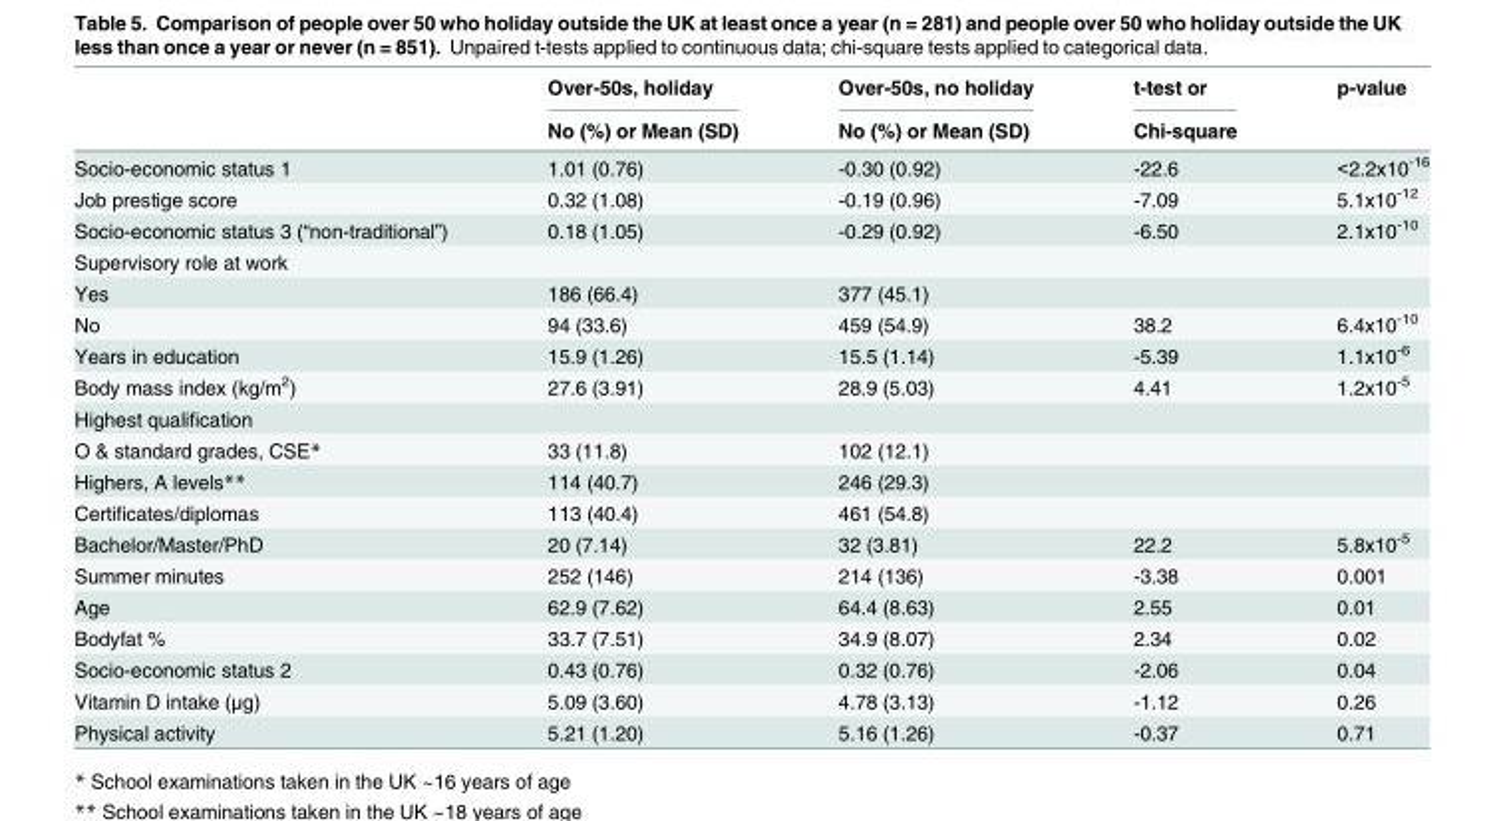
<table><thead><tr><td rowspan="2"></td><td rowspan="2">Over-50s, holiday No (%) or Mean (SD)</td><td rowspan="2">Over-50s, no holiday No (%) or Mean (SD)</td><td rowspan="2">t-test or Chi-square</td><td rowspan="2">p-value</td></tr><tr></tr></thead><tbody><tr><td>Socio-economic status 1</td><td>1.01 (0.76)</td><td>-0.30 (0.92)</td><td>-22.6</td><td>&lt;2.2x10<sup>-16</sup></td></tr><tr><td>Job prestige score</td><td>0.32 (1.08)</td><td>-0.19 (0.96)</td><td>-7.09</td><td>5.1x10<sup>-12</sup></td></tr><tr><td>Socio-economic status 3 (“non-traditional”)</td><td>0.18 (1.05)</td><td>-0.29 (0.92)</td><td>-6.50</td><td>2.1x10<sup>-10</sup></td></tr><tr><td colspan="5">Supervisory role at work</td></tr><tr><td>Yes</td><td>186 (66.4)</td><td>377 (45.1)</td><td></td><td></td></tr><tr><td>No</td><td>94 (33.6)</td><td>459 (54.9)</td><td>38.2</td><td>6.4x10<sup>-10</sup></td></tr><tr><td>Years in education</td><td>15.9 (1.26)</td><td>15.5 (1.14)</td><td>-5.39</td><td>1.1x10<sup>-6</sup></td></tr><tr><td>Body mass index (kg/m<sup>2</sup>)</td><td>27.6 (3.91)</td><td>28.9 (5.03)</td><td>4.41</td><td>1.2x10<sup>-5</sup></td></tr><tr><td colspan="5">Highest qualification</td></tr><tr><td>O &amp; standard grades, CSE*</td><td>33 (11.8)</td><td>102 (12.1)</td><td></td><td></td></tr><tr><td>Highers, A levels**</td><td>114 (40.7)</td><td>246 (29.3)</td><td></td><td></td></tr><tr><td>Certificates/diplomas</td><td>113 (40.4)</td><td>461 (54.8)</td><td></td><td></td></tr><tr><td>Bachelor/Master/PhD</td><td>20 (7.14)</td><td>32 (3.81)</td><td>22.2</td><td>5.8x10<sup>-5</sup></td></tr><tr><td>Summer minutes</td><td>252 (146)</td><td>214 (136)</td><td>-3.38</td><td>0.001</td></tr><tr><td>Age</td><td>62.9 (7.62)</td><td>64.4 (8.63)</td><td>2.55</td><td>0.01</td></tr><tr><td>Bodyfat %</td><td>33.7 (7.51)</td><td>34.9 (8.07)</td><td>2.34</td><td>0.02</td></tr><tr><td>Socio-economic status 2</td><td>0.43 (0.76)</td><td>0.32 (0.76)</td><td>-2.06</td><td>0.04</td></tr><tr><td>Vitamin D intake (μg)</td><td>5.09 (3.60)</td><td>4.78 (3.13)</td><td>-1.12</td><td>0.26</td></tr><tr><td>Physical activity</td><td>5.21 (1.20)</td><td>5.16 (1.26)</td><td>-0.37</td><td>0.71</td></tr></tbody></table>